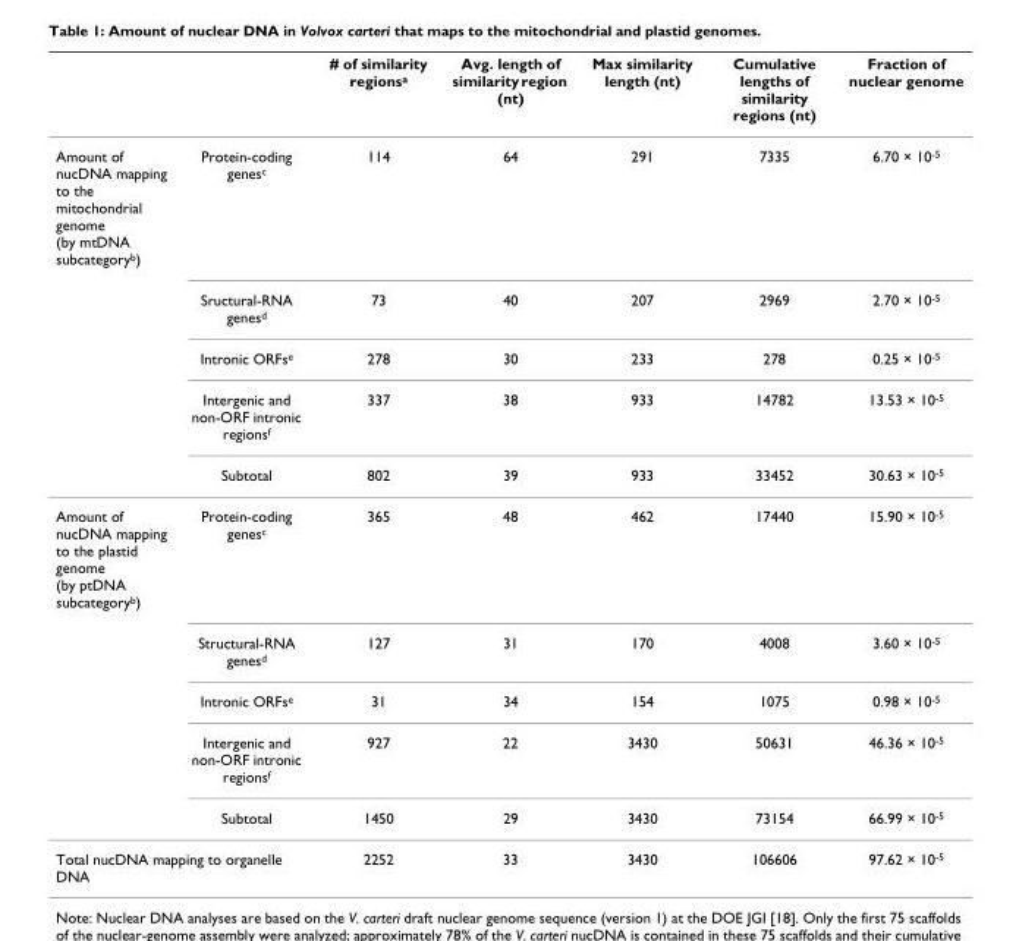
<table><thead><tr><td></td><td></td><td># of similarity regions<sup>a</sup></td><td>Avg. length of similarity region (nt)</td><td>Max similarity length (nt)</td><td>Cumulative lengths of similarity regions (nt)</td><td>Fraction of nuclear genome</td></tr></thead><tbody><tr><td rowspan="5">Amount of nucDNA mapping to the mitochondrial genome (by mtDNA subcategory<sup>b</sup>)</td><td>Protein-coding genes<sup>c</sup></td><td>114</td><td>64</td><td>291</td><td>7335</td><td>6.70 × 10<sup>-5</sup></td></tr><tr><td>Sructural-RNA genes<sup>d</sup></td><td>73</td><td>40</td><td>207</td><td>2969</td><td>2.70 × 10<sup>-5</sup></td></tr><tr><td>Intronic ORFs<sup>e</sup></td><td>278</td><td>30</td><td>233</td><td>278</td><td>0.25 × 10<sup>-5</sup></td></tr><tr><td>Intergenic and non-ORF intronic regions<sup>f</sup></td><td>337</td><td>38</td><td>933</td><td>14782</td><td>13.53 × 10<sup>-5</sup></td></tr><tr><td>Subtotal</td><td>802</td><td>39</td><td>933</td><td>33452</td><td>30.63 × 10<sup>-5</sup></td></tr><tr><td rowspan="5">Amount of nucDNA mapping to the plastid genome (by ptDNA subcategory<sup>b</sup>)</td><td>Protein-coding genes<sup>c</sup></td><td>365</td><td>48</td><td>462</td><td>17440</td><td>15.90 × 10<sup>-5</sup></td></tr><tr><td>Structural-RNA genes<sup>d</sup></td><td>127</td><td>31</td><td>170</td><td>4008</td><td>3.60 × 10<sup>-5</sup></td></tr><tr><td>Intronic ORFs<sup>e</sup></td><td>31</td><td>34</td><td>154</td><td>1075</td><td>0.98 × 10<sup>-5</sup></td></tr><tr><td>Intergenic and non-ORF intronic regions<sup>f</sup></td><td>927</td><td>22</td><td>3430</td><td>50631</td><td>46.36 × 10<sup>-5</sup></td></tr><tr><td>Subtotal</td><td>1450</td><td>29</td><td>3430</td><td>73154</td><td>66.99 × 10<sup>-5</sup></td></tr><tr><td colspan="2">Total nucDNA mapping to organelle DNA</td><td>2252</td><td>33</td><td>3430</td><td>106606</td><td>97.62 × 10<sup>-5</sup></td></tr></tbody></table>